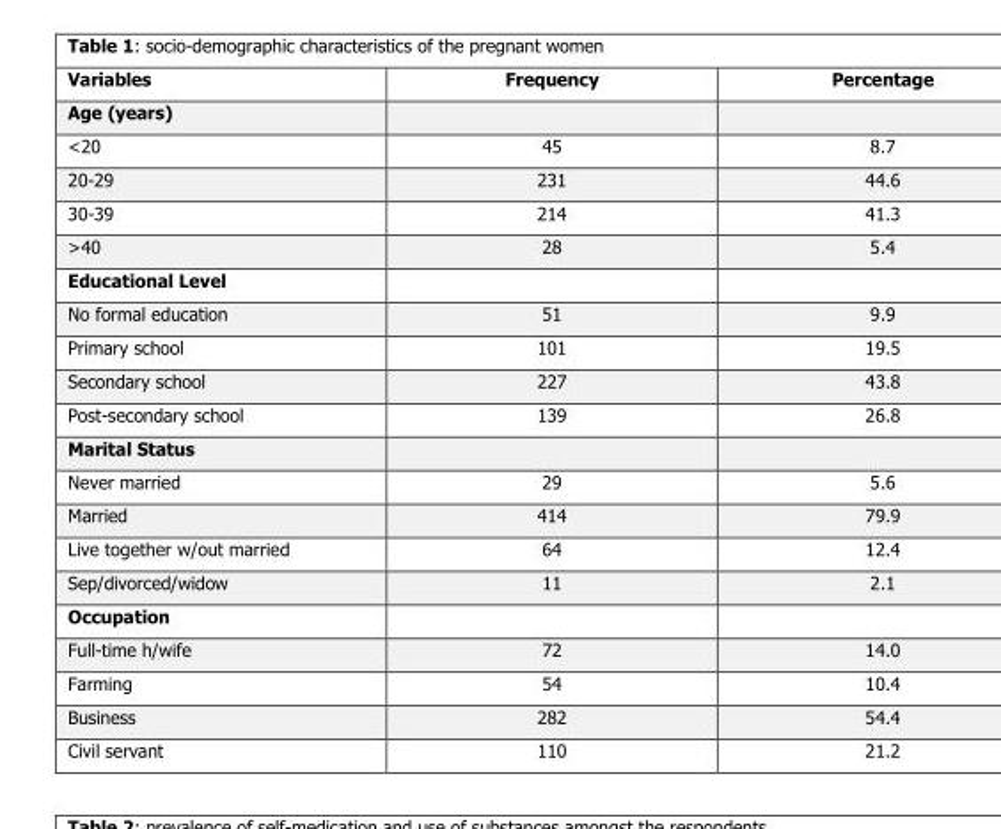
<table><thead><tr><td>Variables</td><td>Frequency</td><td>Percentage</td></tr></thead><tbody><tr><td colspan="3">Age (years)</td></tr><tr><td>&lt;20</td><td>45</td><td>8.7</td></tr><tr><td>20-29</td><td>231</td><td>44.6</td></tr><tr><td>30-39</td><td>214</td><td>41.3</td></tr><tr><td>&gt;40</td><td>28</td><td>5.4</td></tr><tr><td colspan="3">Educational Level</td></tr><tr><td>No formal education</td><td>51</td><td>9.9</td></tr><tr><td>Primary school</td><td>101</td><td>19.5</td></tr><tr><td>Secondary school</td><td>227</td><td>43.8</td></tr><tr><td>Post-secondary school</td><td>139</td><td>26.8</td></tr><tr><td colspan="3">Marital Status</td></tr><tr><td>Never married</td><td>29</td><td>5.6</td></tr><tr><td>Married</td><td>414</td><td>79.9</td></tr><tr><td>Live together w/out married</td><td>64</td><td>12.4</td></tr><tr><td>Sep/divorced/widow</td><td>11</td><td>2.1</td></tr><tr><td colspan="3">Occupation</td></tr><tr><td>Full-time h/wife</td><td>72</td><td>14.0</td></tr><tr><td>Farming</td><td>54</td><td>10.4</td></tr><tr><td>Business</td><td>282</td><td>54.4</td></tr><tr><td>Civil servant</td><td>110</td><td>21.2</td></tr></tbody></table>